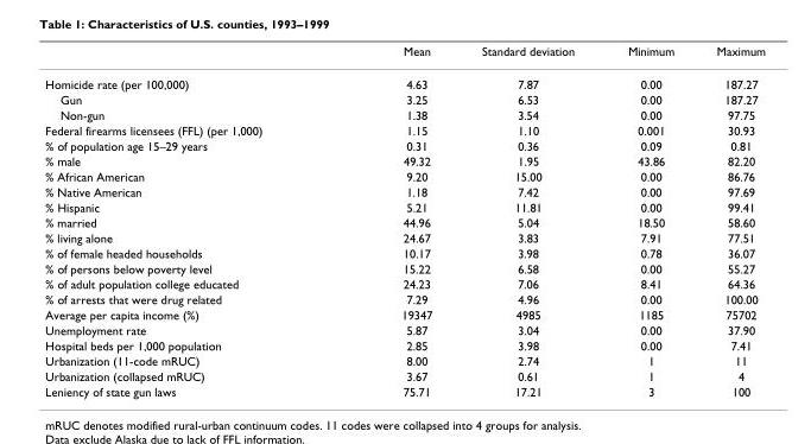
<table><thead><tr><td></td><td>Mean</td><td>Standard deviation</td><td>Minimum</td><td>Maximum</td></tr></thead><tbody><tr><td>Homicide rate (per 100,000)</td><td>4.63</td><td>7.87</td><td>0.00</td><td>187.27</td></tr><tr><td>Gun</td><td>3.25</td><td>6.53</td><td>0.00</td><td>187.27</td></tr><tr><td>Non-gun</td><td>1.38</td><td>3.54</td><td>0.00</td><td>97.75</td></tr><tr><td>Federal firearms licensees (FFL) (per 1,000)</td><td>1.15</td><td>1.10</td><td>0.001</td><td>30.93</td></tr><tr><td>% of population age 15–29 years</td><td>0.31</td><td>0.36</td><td>0.09</td><td>0.81</td></tr><tr><td>% male</td><td>49.32</td><td>1.95</td><td>43.86</td><td>82.20</td></tr><tr><td>% African American</td><td>9.20</td><td>15.00</td><td>0.00</td><td>86.76</td></tr><tr><td>% Native American</td><td>1.18</td><td>7.42</td><td>0.00</td><td>97.69</td></tr><tr><td>% Hispanic</td><td>5.21</td><td>11.81</td><td>0.00</td><td>99.41</td></tr><tr><td>% married</td><td>44.96</td><td>5.04</td><td>18.50</td><td>58.60</td></tr><tr><td>% living alone</td><td>24.67</td><td>3.83</td><td>7.91</td><td>77.51</td></tr><tr><td>% of female headed households</td><td>10.17</td><td>3.98</td><td>0.78</td><td>36.07</td></tr><tr><td>% of persons below poverty level</td><td>15.22</td><td>6.58</td><td>0.00</td><td>55.27</td></tr><tr><td>% of adult population college educated</td><td>24.23</td><td>7.06</td><td>8.41</td><td>64.36</td></tr><tr><td>% of arrests that were drug related</td><td>7.29</td><td>4.96</td><td>0.00</td><td>100.00</td></tr><tr><td>Average per capita income (%)</td><td>19347</td><td>4985</td><td>1185</td><td>75702</td></tr><tr><td>Unemployment rate</td><td>5.87</td><td>3.04</td><td>0.00</td><td>37.90</td></tr><tr><td>Hospital beds per 1,000 population</td><td>2.85</td><td>3.98</td><td>0.00</td><td>7.41</td></tr><tr><td>Urbanization (11-code mRUC)</td><td>8.00</td><td>2.74</td><td>1</td><td>11</td></tr><tr><td>Urbanization (collapsed mRUC)</td><td>3.67</td><td>0.61</td><td>1</td><td>4</td></tr><tr><td>Leniency of state gun laws</td><td>75.71</td><td>17.21</td><td>3</td><td>100</td></tr></tbody></table>